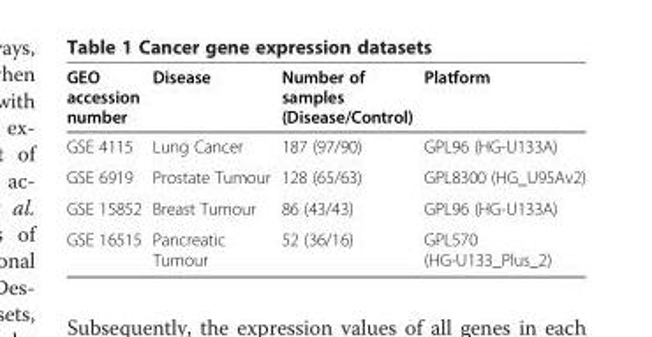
<table><thead><tr><td>GEO accession number</td><td>Disease</td><td>Number of samples (Disease/Control)</td><td>Platform</td></tr></thead><tbody><tr><td>GSE 4115</td><td>Lung Cancer</td><td>187 (97/90)</td><td>GPL96 (HG-U133A)</td></tr><tr><td>GSE 6919</td><td>Prostate Tumour</td><td>128 (65/63)</td><td>GPL8300 (HG_U95Av2)</td></tr><tr><td>GSE 15852</td><td>Breast Tumour</td><td>86 (43/43)</td><td>GPL96 (HG-U133A)</td></tr><tr><td>GSE 16515</td><td>Pancreatic Tumour</td><td>52 (36/16)</td><td>GPL570 (HG-U133_Plus_2)</td></tr></tbody></table>